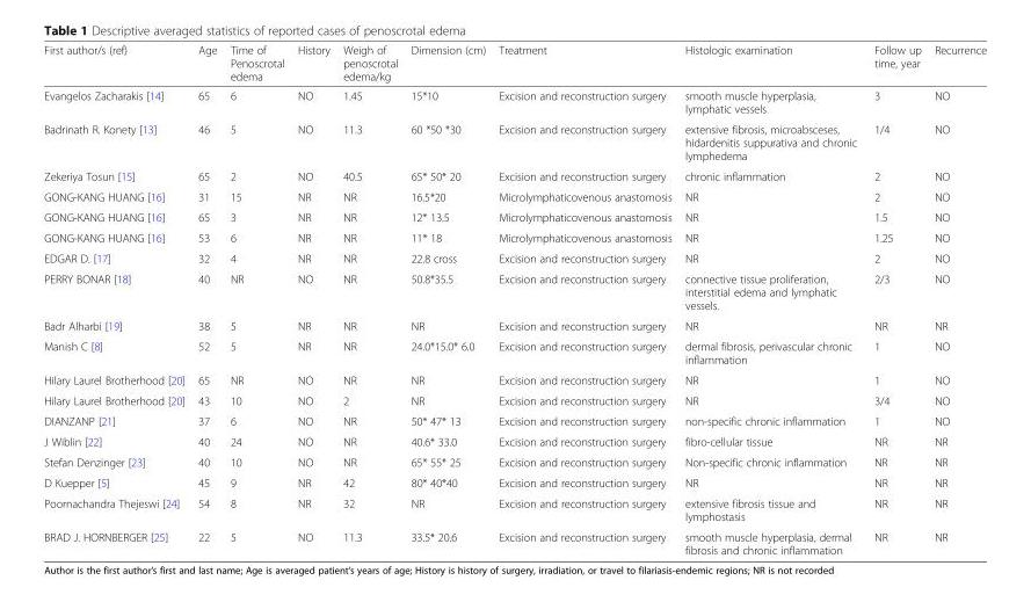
<table><thead><tr><td>First author/s (ref)</td><td>Age</td><td>Time of Penoscrotal edema</td><td>History</td><td>Weigh of penoscrotal edema/kg</td><td>Dimension (cm)</td><td>Treatment</td><td>Histologic examination</td><td>Follow up time, year</td><td>Recurrence</td></tr></thead><tbody><tr><td>Evangelos Zacharakis [14]</td><td>65</td><td>6</td><td>NO</td><td>1.45</td><td>15*10</td><td>Excision and reconstruction surgery</td><td>smooth muscle hyperplasia, lymphatic vessels</td><td>3</td><td>NO</td></tr><tr><td>Badrinath R. Konety [13]</td><td>46</td><td>5</td><td>NO</td><td>11.3</td><td>60 *50 *30</td><td>Excision and reconstruction surgery</td><td>extensive fibrosis, microabsceses, hidardenitis suppurativa and chronic lymphedema</td><td>1/4</td><td>NO</td></tr><tr><td>Zekeriya Tosun [15]</td><td>65</td><td>2</td><td>NO</td><td>40.5</td><td>65* 50* 20</td><td>Excision and reconstruction surgery</td><td>chronic inflammation</td><td>2</td><td>NO</td></tr><tr><td>GONG-KANG HUANG [16]</td><td>31</td><td>15</td><td>NR</td><td>NR</td><td>16.5*20</td><td>Microlymphaticovenous anastomosis</td><td>NR</td><td>2</td><td>NO</td></tr><tr><td>GONG-KANG HUANG [16]</td><td>65</td><td>3</td><td>NR</td><td>NR</td><td>12* 13.5</td><td>Microlymphaticovenous anastomosis</td><td>NR</td><td>1.5</td><td>NO</td></tr><tr><td>GONG-KANG HUANG [16]</td><td>53</td><td>6</td><td>NR</td><td>NR</td><td>11* 18</td><td>Microlymphaticovenous anastomosis</td><td>NR</td><td>1.25</td><td>NO</td></tr><tr><td>EDGAR D. [17]</td><td>32</td><td>4</td><td>NR</td><td>NR</td><td>22.8 cross</td><td>Excision and reconstruction surgery</td><td>NR</td><td>2</td><td>NO</td></tr><tr><td>PERRY BONAR [18]</td><td>40</td><td>NR</td><td>NO</td><td>NR</td><td>50.8*35.5</td><td>Excision and reconstruction surgery</td><td>connective tissue proliferation, interstitial edema and lymphatic vessels.</td><td>2/3</td><td>NO</td></tr><tr><td>Badr Alharbi [19]</td><td>38</td><td>5</td><td>NR</td><td>NR</td><td>NR</td><td>Excision and reconstruction surgery</td><td>NR</td><td>NR</td><td>NR</td></tr><tr><td>Manish C [8]</td><td>52</td><td>5</td><td>NR</td><td>NR</td><td>24.0*15.0* 6.0</td><td>Excision and reconstruction surgery</td><td>dermal fibrosis, perivascular chronic inflammation</td><td>1</td><td>NO</td></tr><tr><td>Hilary Laurel Brotherhood [20]</td><td>65</td><td>NR</td><td>NO</td><td>NR</td><td>NR</td><td>Excision and reconstruction surgery</td><td>NR</td><td>1</td><td>NO</td></tr><tr><td>Hilary Laurel Brotherhood [20]</td><td>43</td><td>10</td><td>NO</td><td>2</td><td>NR</td><td>Excision and reconstruction surgery</td><td>NR</td><td>3/4</td><td>NO</td></tr><tr><td>DIANZANP [21]</td><td>37</td><td>6</td><td>NO</td><td>NR</td><td>50* 47* 13</td><td>Excision and reconstruction surgery</td><td>non-specific chronic inflammation</td><td>1</td><td>NO</td></tr><tr><td>J Wiblin [22]</td><td>40</td><td>24</td><td>NO</td><td>NR</td><td>40.6* 33.0</td><td>Excision and reconstruction surgery</td><td>fibro-cellular tissue</td><td>NR</td><td>NR</td></tr><tr><td>Stefan Denzinger [23]</td><td>40</td><td>10</td><td>NO</td><td>NR</td><td>65* 55* 25</td><td>Excision and reconstruction surgery</td><td>Non-specific chronic inflammation</td><td>NR</td><td>NR</td></tr><tr><td>D Kuepper [5]</td><td>45</td><td>9</td><td>NR</td><td>42</td><td>80* 40*40</td><td>Excision and reconstruction surgery</td><td>NR</td><td>NR</td><td>NR</td></tr><tr><td>Poornachandra Thejeswi [24]</td><td>54</td><td>8</td><td>NR</td><td>32</td><td>NR</td><td>Excision and reconstruction surgery</td><td>extensive fibrosis tissue and lymphostasis</td><td>NR</td><td>NR</td></tr><tr><td>BRAD J. HORNBERGER [25]</td><td>22</td><td>5</td><td>NO</td><td>11.3</td><td>33.5* 20.6</td><td>Excision and reconstruction surgery</td><td>smooth muscle hyperplasia, dermal fibrosis and chronic inflammation</td><td>NR</td><td>NR</td></tr></tbody></table>